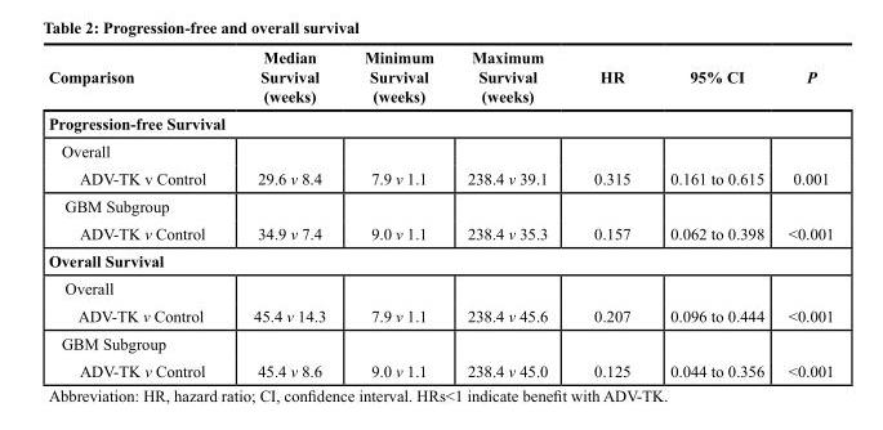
<table><thead><tr><td>Comparison</td><td>Median Survival (weeks)</td><td>Minimum Survival (weeks)</td><td>Maximum Survival (weeks)</td><td>HR</td><td>95% CI</td><td>P</td></tr></thead><tbody><tr><td colspan="7">Progression-free Survival</td></tr><tr><td>Overall ADV-TK v Control</td><td>29.6 v 8.4</td><td>7.9 v 1.1</td><td>238.4 v 39.1</td><td>0.315</td><td>0.161 to 0.615</td><td>0.001</td></tr><tr><td>GBM Subgroup ADV-TK v Control</td><td>34.9 v 7.4</td><td>9.0 v 1.1</td><td>238.4 v 35.3</td><td>0.157</td><td>0.062 to 0.398</td><td>&lt;0.001</td></tr><tr><td colspan="7">Overall Survival</td></tr><tr><td>Overall ADV-TK v Control</td><td>45.4 v 14.3</td><td>7.9 v 1.1</td><td>238.4 v 45.6</td><td>0.207</td><td>0.096 to 0.444</td><td>&lt;0.001</td></tr><tr><td>GBM Subgroup ADV-TK v Control</td><td>45.4 v 8.6</td><td>9.0 v 1.1</td><td>238.4 v 45.0</td><td>0.125</td><td>0.044 to 0.356</td><td>&lt;0.001</td></tr></tbody></table>